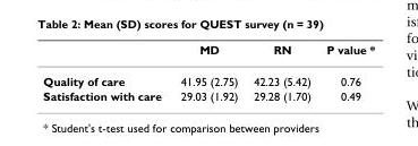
<table><thead><tr><td></td><td>MD</td><td>RN</td><td>P value *</td></tr></thead><tbody><tr><td>Quality of care</td><td>41.95 (2.75)</td><td>42.23 (5.42)</td><td>0.76</td></tr><tr><td>Satisfaction with care</td><td>29.03 (1.92)</td><td>29.28 (1.70)</td><td>0.49</td></tr></tbody></table>